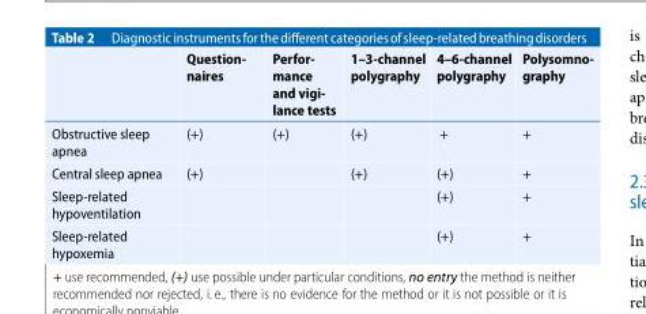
<table><thead><tr><td></td><td>Question- naires</td><td>Perfor- mance and vigi- lance tests</td><td>1–3-channel polygraphy</td><td>4–6-channel polygraphy</td><td>Polysomno- graphy</td></tr></thead><tbody><tr><td>Obstructive sleep apnea</td><td>(+)</td><td>(+)</td><td>(+)</td><td>+</td><td>+</td></tr><tr><td>Central sleep apnea</td><td>(+)</td><td></td><td>(+)</td><td>(+)</td><td>+</td></tr><tr><td>Sleep-related hypoventilation</td><td></td><td></td><td></td><td>(+)</td><td>+</td></tr><tr><td>Sleep-related hypoxemia</td><td></td><td></td><td></td><td>(+)</td><td>+</td></tr></tbody></table>